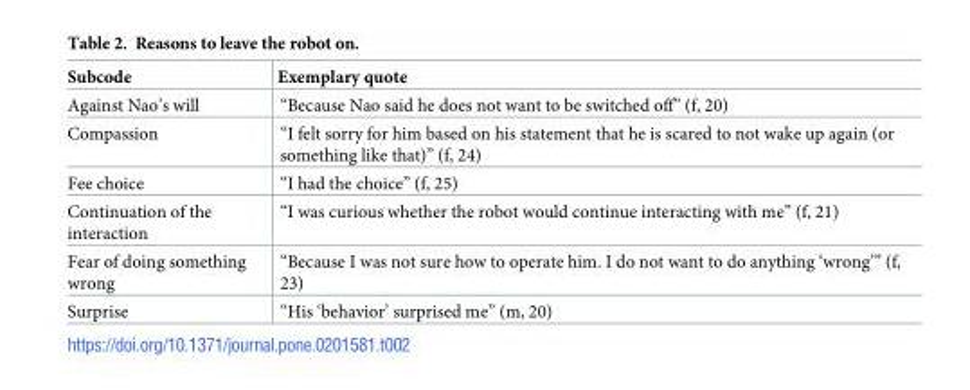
<table><thead><tr><td>Subcode</td><td>Exemplary quote</td></tr></thead><tbody><tr><td>Against Nao’s will</td><td>“Because Nao said he does not want to be switched off” (f, 20)</td></tr><tr><td>Compassion</td><td>“I felt sorry for him based on his statement that he is scared to not wake up again (or something like that)” (f, 24)</td></tr><tr><td>Fee choice</td><td>“I had the choice” (f, 25)</td></tr><tr><td>Continuation of the interaction</td><td>“I was curious whether the robot would continue interacting with me” (f, 21)</td></tr><tr><td>Fear of doing something wrong</td><td>“Because I was not sure how to operate him. I do not want to do anything ‘wrong’” (f, 23)</td></tr><tr><td>Surprise</td><td>“His ‘behavior’ surprised me” (m, 20)</td></tr></tbody></table>